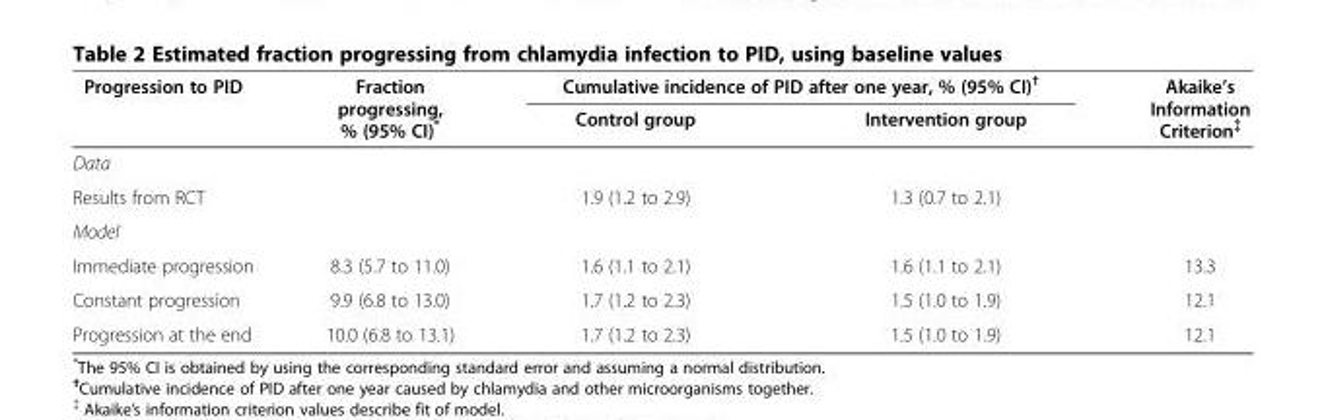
<table><thead><tr><td rowspan="2">Progression to PID</td><td rowspan="2">Fraction progressing, % (95% CI)*</td><td colspan="2">Cumulative incidence of PID after one year, % (95% CI)<sup>†</sup></td><td rowspan="2">Akaike’s Information Criterion{{</td></tr><tr><td>Control group</td><td>Intervention group</td></tr></thead><tbody><tr><td colspan="5">Data</td></tr><tr><td>Results from RCT</td><td></td><td>1.9 (1.2 to 2.9)</td><td>1.3 (0.7 to 2.1)</td><td></td></tr><tr><td colspan="5">Model</td></tr><tr><td>Immediate progression</td><td>8.3 (5.7 to 11.0)</td><td>1.6 (1.1 to 2.1)</td><td>1.6 (1.1 to 2.1)</td><td>13.3</td></tr><tr><td>Constant progression</td><td>9.9 (6.8 to 13.0)</td><td>1.7 (1.2 to 2.3)</td><td>1.5 (1.0 to 1.9)</td><td>12.1</td></tr><tr><td>Progression at the end</td><td>10.0 (6.8 to 13.1)</td><td>1.7 (1.2 to 2.3)</td><td>1.5 (1.0 to 1.9)</td><td>12.1</td></tr></tbody></table>